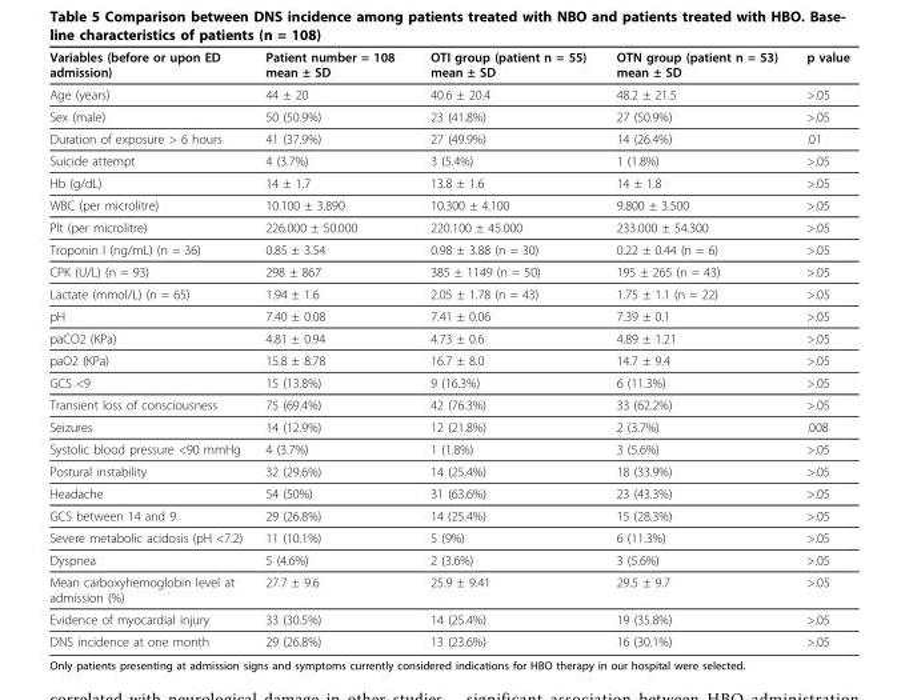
<table><thead><tr><td>Variables (before or upon ED admission)</td><td>Patient number = 108 mean ± SD</td><td>OTI group (patient n = 55) mean ± SD</td><td>OTN group (patient n = 53) mean ± SD</td><td>p value</td></tr></thead><tbody><tr><td>Age (years)</td><td>44 ± 20</td><td>40.6 ± 20.4</td><td>48.2 ± 21.5</td><td>&gt;.05</td></tr><tr><td>Sex (male)</td><td>50 (50.9%)</td><td>23 (41.8%)</td><td>27 (50.9%)</td><td>&gt;.05</td></tr><tr><td>Duration of exposure &gt; 6 hours</td><td>41 (37.9%)</td><td>27 (49.9%)</td><td>14 (26.4%)</td><td>.01</td></tr><tr><td>Suicide attempt</td><td>4 (3.7%)</td><td>3 (5.4%)</td><td>1 (1.8%)</td><td>&gt;.05</td></tr><tr><td>Hb (g/dL)</td><td>14 ± 1.7</td><td>13.8 ± 1.6</td><td>14 ± 1.8</td><td>&gt;.05</td></tr><tr><td>WBC (per microlitre)</td><td>10.100 ± 3.890</td><td>10.300 ± 4.100</td><td>9.800 ± 3.500</td><td>&gt;.05</td></tr><tr><td>Plt (per microlitre)</td><td>226.000 ± 50.000</td><td>220.100 ± 45.000</td><td>233.000 ± 54.300</td><td>&gt;.05</td></tr><tr><td>Troponin I (ng/mL) (n = 36)</td><td>0.85 ± 3.54</td><td>0.98 ± 3.88 (n = 30)</td><td>0.22 ± 0.44 (n = 6)</td><td>&gt;.05</td></tr><tr><td>CPK (U/L) (n = 93)</td><td>298 ± 867</td><td>385 ± 1149 (n = 50)</td><td>195 ± 265 (n = 43)</td><td>&gt;.05</td></tr><tr><td>Lactate (mmol/L) (n = 65)</td><td>1.94 ± 1.6</td><td>2.05 ± 1.78 (n = 43)</td><td>1.75 ± 1.1 (n = 22)</td><td>&gt;.05</td></tr><tr><td>pH</td><td>7.40 ± 0.08</td><td>7.41 ± 0.06</td><td>7.39 ± 0.1</td><td>&gt;.05</td></tr><tr><td>paCO2 (KPa)</td><td>4.81 ± 0.94</td><td>4.73 ± 0.6</td><td>4.89 ± 1.21</td><td>&gt;.05</td></tr><tr><td>paO2 (KPa)</td><td>15.8 ± 8.78</td><td>16.7 ± 8.0</td><td>14.7 ± 9.4</td><td>&gt;.05</td></tr><tr><td>GCS &lt;9</td><td>15 (13.8%)</td><td>9 (16.3%)</td><td>6 (11.3%)</td><td>&gt;.05</td></tr><tr><td>Transient loss of consciousness</td><td>75 (69.4%)</td><td>42 (76.3%)</td><td>33 (62.2%)</td><td>&gt;.05</td></tr><tr><td>Seizures</td><td>14 (12.9%)</td><td>12 (21.8%)</td><td>2 (3.7%)</td><td>.008</td></tr><tr><td>Systolic blood pressure &lt;90 mmHg</td><td>4 (3.7%)</td><td>1 (1.8%)</td><td>3 (5.6%)</td><td>&gt;.05</td></tr><tr><td>Postural instability</td><td>32 (29.6%)</td><td>14 (25.4%)</td><td>18 (33.9%)</td><td>&gt;.05</td></tr><tr><td>Headache</td><td>54 (50%)</td><td>31 (63.6%)</td><td>23 (43.3%)</td><td>&gt;.05</td></tr><tr><td>GCS between 14 and 9</td><td>29 (26.8%)</td><td>14 (25.4%)</td><td>15 (28.3%)</td><td>&gt;.05</td></tr><tr><td>Severe metabolic acidosis (pH &lt;7.2)</td><td>11 (10.1%)</td><td>5 (9%)</td><td>6 (11.3%)</td><td>&gt;.05</td></tr><tr><td>Dyspnea</td><td>5 (4.6%)</td><td>2 (3.6%)</td><td>3 (5.6%)</td><td>&gt;.05</td></tr><tr><td>Mean carboxyhemoglobin level at admission (%)</td><td>27.7 ± 9.6</td><td>25.9 ± 9.41</td><td>29.5 ± 9.7</td><td>&gt;.05</td></tr><tr><td>Evidence of myocardial injury</td><td>33 (30.5%)</td><td>14 (25.4%)</td><td>19 (35.8%)</td><td>&gt;.05</td></tr><tr><td>DNS incidence at one month</td><td>29 (26.8%)</td><td>13 (23.6%)</td><td>16 (30.1%)</td><td>&gt;.05</td></tr></tbody></table>